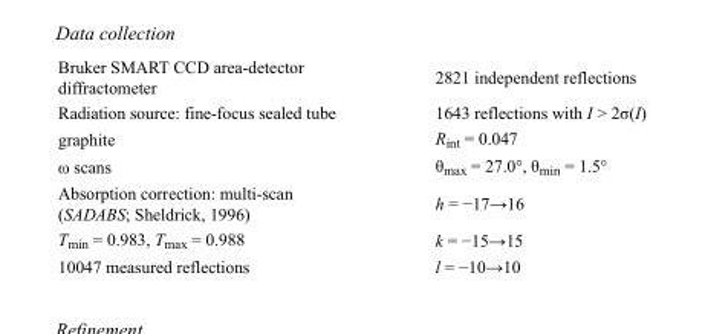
<table><tbody><tr><td>Bruker SMART CCD area-detector diffractometer</td><td>2821 independent reflections</td></tr><tr><td>Radiation source: fine-focus sealed tube</td><td>1643 reflections with I &gt; 2σ(I)</td></tr><tr><td>graphite</td><td>R<sub>int</sub> = 0.047</td></tr><tr><td>ω scans</td><td>θ<sub>max</sub> = 27.0°, θ<sub>min</sub> = 1.5°</td></tr><tr><td>Absorption correction: multi-scan (SADABS; Sheldrick, 1996)</td><td>h = −17→16</td></tr><tr><td>T<sub>min</sub> = 0.983, T<sub>max</sub> = 0.988</td><td>k = −15→15</td></tr><tr><td>10047 measured reflections</td><td>l = −10→10</td></tr></tbody></table>